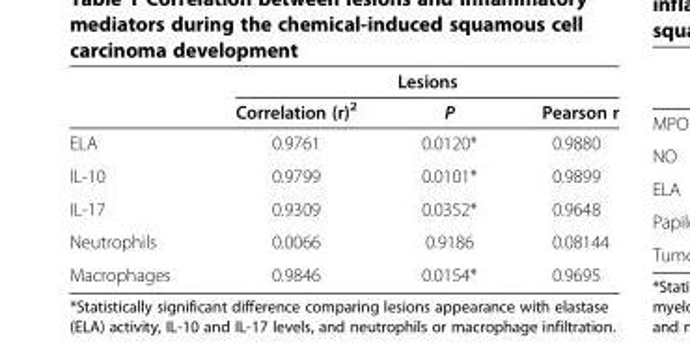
<table><thead><tr><td rowspan="2"></td><td colspan="3">Lesions</td></tr><tr><td>Correlation (r)<sup>2</sup></td><td>P</td><td>Pearson r</td></tr></thead><tbody><tr><td>ELA</td><td>0.9761</td><td>0.0120*</td><td>0.9880</td></tr><tr><td>IL-10</td><td>0.9799</td><td>0.0101*</td><td>0.9899</td></tr><tr><td>IL-17</td><td>0.9309</td><td>0.0352*</td><td>0.9648</td></tr><tr><td>Neutrophils</td><td>0.0066</td><td>0.9186</td><td>0.08144</td></tr><tr><td>Macrophages</td><td>0.9846</td><td>0.0154*</td><td>0.9695</td></tr></tbody></table>